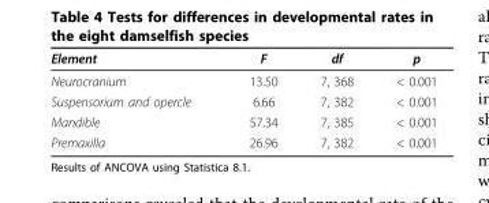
<table><thead><tr><td>Element</td><td>F</td><td>df</td><td>p</td></tr></thead><tbody><tr><td>Neurocranium</td><td>13.50</td><td>7, 368</td><td>&lt; 0.001</td></tr><tr><td>Suspensorium and opercle</td><td>6.66</td><td>7, 382</td><td>&lt; 0.001</td></tr><tr><td>Mandible</td><td>57.34</td><td>7, 385</td><td>&lt; 0.001</td></tr><tr><td>Premaxilla</td><td>26.96</td><td>7, 382</td><td>&lt; 0.001</td></tr></tbody></table>